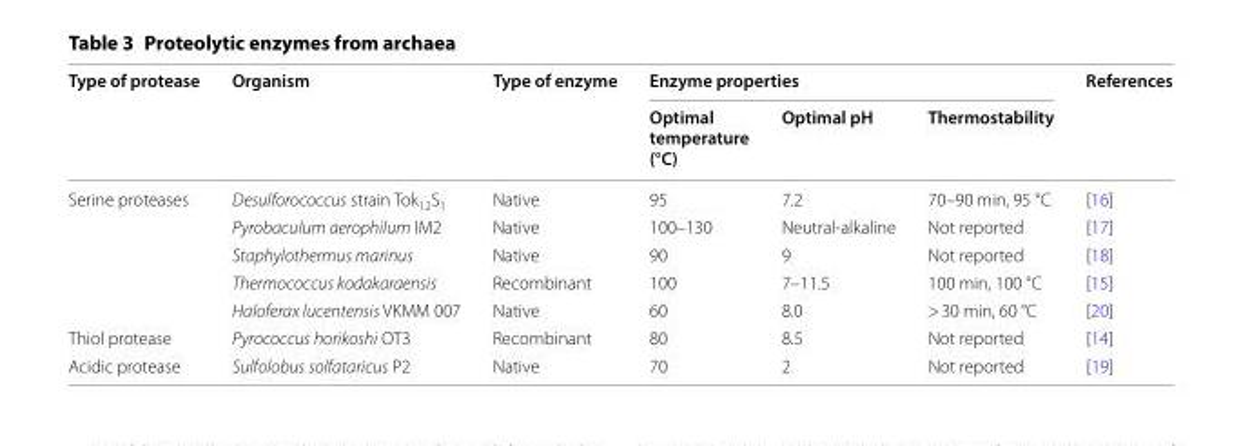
<table><thead><tr><td rowspan="2">Type of protease</td><td rowspan="2">Organism</td><td rowspan="2">Type of enzyme</td><td colspan="3">Enzyme properties</td><td rowspan="2">References</td></tr><tr><td>Optimal temperature (°C)</td><td>Optimal pH</td><td>Thermostability</td></tr></thead><tbody><tr><td rowspan="5">Serine proteases</td><td>Desulforococcus strain Tok<sub>12</sub>S<sub>1</sub></td><td>Native</td><td>95</td><td>7.2</td><td>70–90 min, 95 °C</td><td>[16]</td></tr><tr><td>Pyrobaculum aerophilum IM2</td><td>Native</td><td>100–130</td><td>Neutral-alkaline</td><td>Not reported</td><td>[17]</td></tr><tr><td>Staphylothermus marinus</td><td>Native</td><td>90</td><td>9</td><td>Not reported</td><td>[18]</td></tr><tr><td>Thermococcus kodakaraensis</td><td>Recombinant</td><td>100</td><td>7–11.5</td><td>100 min, 100 °C</td><td>[15]</td></tr><tr><td>Haloferax lucentensis VKMM 007</td><td>Native</td><td>60</td><td>8.0</td><td>&gt; 30 min, 60 °C</td><td>[20]</td></tr><tr><td>Thiol protease</td><td>Pyrococcus horikoshi OT3</td><td>Recombinant</td><td>80</td><td>8.5</td><td>Not reported</td><td>[14]</td></tr><tr><td>Acidic protease</td><td>Sulfolobus solfataricus P2</td><td>Native</td><td>70</td><td>2</td><td>Not reported</td><td>[19]</td></tr></tbody></table>